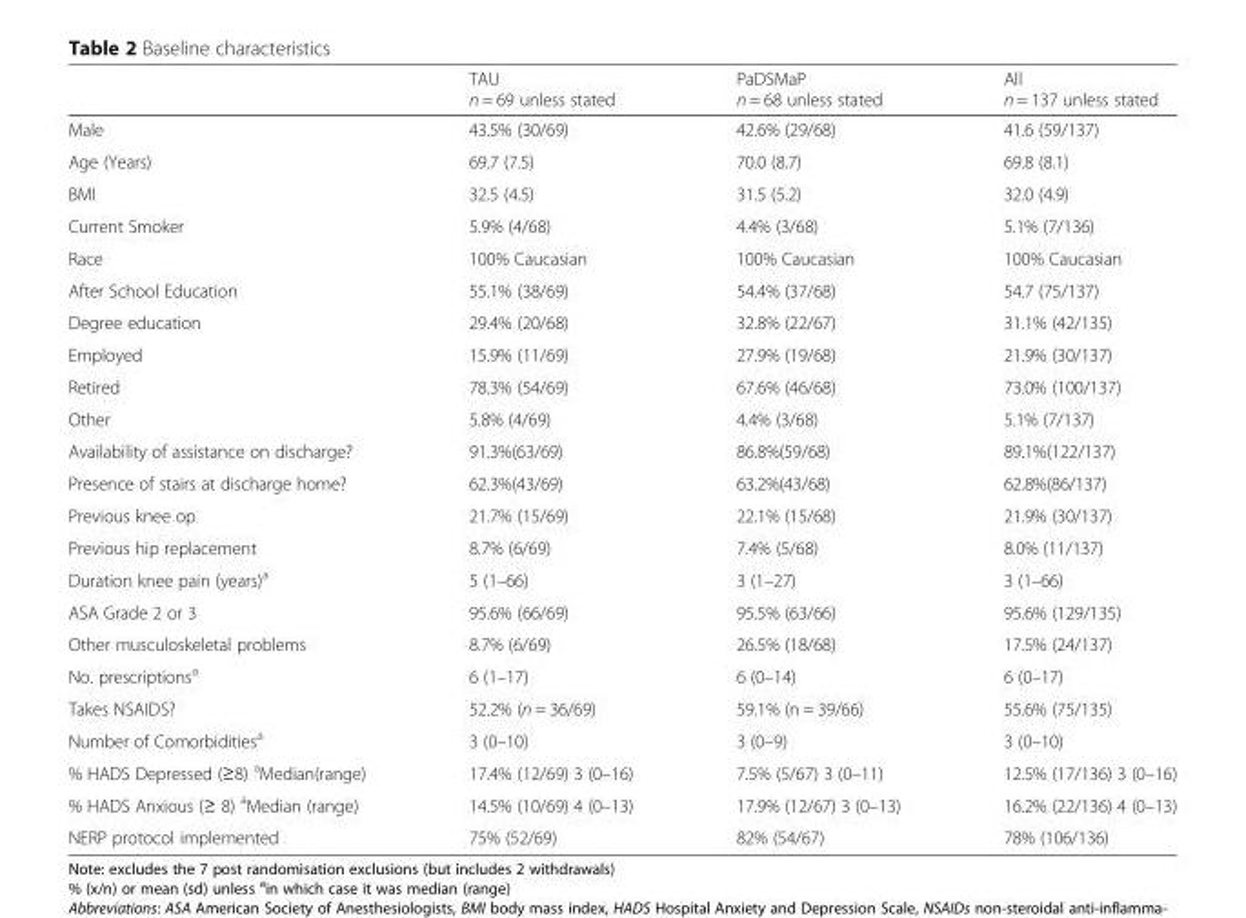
<table><thead><tr><td></td><td>TAU n = 69 unless stated</td><td>PaDSMaP n = 68 unless stated</td><td>All n = 137 unless stated</td></tr></thead><tbody><tr><td>Male</td><td>43.5% (30/69)</td><td>42.6% (29/68)</td><td>41.6 (59/137)</td></tr><tr><td>Age (Years)</td><td>69.7 (7.5)</td><td>70.0 (8.7)</td><td>69.8 (8.1)</td></tr><tr><td>BMI</td><td>32.5 (4.5)</td><td>31.5 (5.2)</td><td>32.0 (4.9)</td></tr><tr><td>Current Smoker</td><td>5.9% (4/68)</td><td>4.4% (3/68)</td><td>5.1% (7/136)</td></tr><tr><td>Race</td><td>100% Caucasian</td><td>100% Caucasian</td><td>100% Caucasian</td></tr><tr><td>After School Education</td><td>55.1% (38/69)</td><td>54.4% (37/68)</td><td>54.7 (75/137)</td></tr><tr><td>Degree education</td><td>29.4% (20/68)</td><td>32.8% (22/67)</td><td>31.1% (42/135)</td></tr><tr><td>Employed</td><td>15.9% (11/69)</td><td>27.9% (19/68)</td><td>21.9% (30/137)</td></tr><tr><td>Retired</td><td>78.3% (54/69)</td><td>67.6% (46/68)</td><td>73.0% (100/137)</td></tr><tr><td>Other</td><td>5.8% (4/69)</td><td>4.4% (3/68)</td><td>5.1% (7/137)</td></tr><tr><td>Availability of assistance on discharge?</td><td>91.3%(63/69)</td><td>86.8%(59/68)</td><td>89.1%(122/137)</td></tr><tr><td>Presence of stairs at discharge home?</td><td>62.3%(43/69)</td><td>63.2%(43/68)</td><td>62.8%(86/137)</td></tr><tr><td>Previous knee op</td><td>21.7% (15/69)</td><td>22.1% (15/68)</td><td>21.9% (30/137)</td></tr><tr><td>Previous hip replacement</td><td>8.7% (6/69)</td><td>7.4% (5/68)</td><td>8.0% (11/137)</td></tr><tr><td>Duration knee pain (years)<sup>a</sup></td><td>5 (1–66)</td><td>3 (1–27)</td><td>3 (1–66)</td></tr><tr><td>ASA Grade 2 or 3</td><td>95.6% (66/69)</td><td>95.5% (63/66)</td><td>95.6% (129/135)</td></tr><tr><td>Other musculoskeletal problems</td><td>8.7% (6/69)</td><td>26.5% (18/68)</td><td>17.5% (24/137)</td></tr><tr><td>No. prescriptions<sup>a</sup></td><td>6 (1–17)</td><td>6 (0–14)</td><td>6 (0–17)</td></tr><tr><td>Takes NSAIDS?</td><td>52.2% (n = 36/69)</td><td>59.1% (n = 39/66)</td><td>55.6% (75/135)</td></tr><tr><td>Number of Comorbidities<sup>a</sup></td><td>3 (0–10)</td><td>3 (0–9)</td><td>3 (0–10)</td></tr><tr><td>% HADS Depressed (≥8) <sup>a</sup>Median(range)</td><td>17.4% (12/69) 3 (0–16)</td><td>7.5% (5/67) 3 (0–11)</td><td>12.5% (17/136) 3 (0–16)</td></tr><tr><td>% HADS Anxious (≥ 8) <sup>a</sup>Median (range)</td><td>14.5% (10/69) 4 (0–13)</td><td>17.9% (12/67) 3 (0–13)</td><td>16.2% (22/136) 4 (0–13)</td></tr><tr><td>NERP protocol implemented</td><td>75% (52/69)</td><td>82% (54/67)</td><td>78% (106/136)</td></tr></tbody></table>